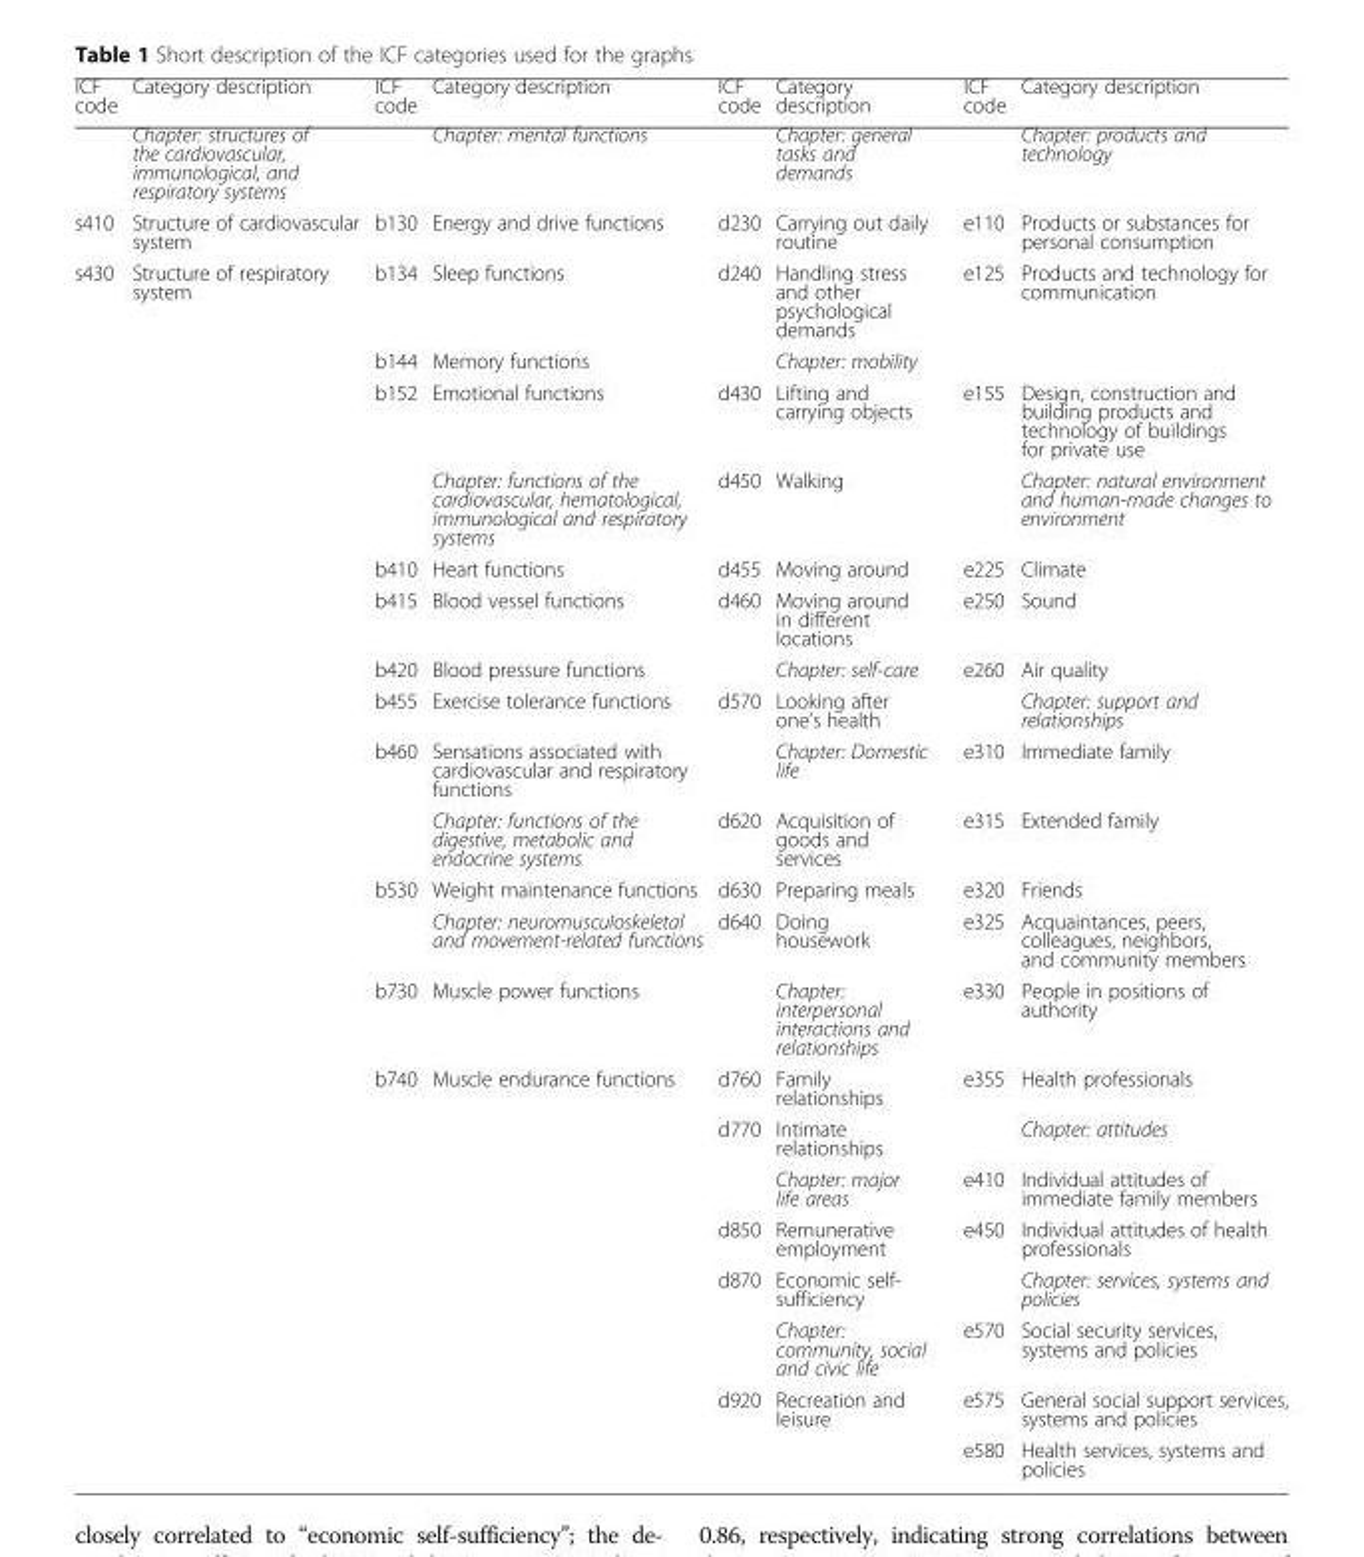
<table><thead><tr><td>ICF code</td><td>Category description</td><td>ICF code</td><td>Category description</td><td>ICF code</td><td>Category description</td><td>ICF code</td><td>Category description</td></tr></thead><tbody><tr><td></td><td>Chapter: structures of the cardiovascular, immunological, and respiratory systems</td><td></td><td>Chapter: mental functions</td><td></td><td>Chapter: general tasks and demands</td><td></td><td>Chapter: products and technology</td></tr><tr><td>s410</td><td>Structure of cardiovascular system</td><td>b130</td><td>Energy and drive functions</td><td>d230</td><td>Carrying out daily routine</td><td>e110</td><td>Products or substances for personal consumption</td></tr><tr><td rowspan="21">s430</td><td>Structure of respiratory system</td><td>b134</td><td>Sleep functions</td><td>d240</td><td>Handling stress and other psychological demands</td><td>e125</td><td>Products and technology for communication</td></tr><tr><td></td><td>b144</td><td>Memory functions</td><td></td><td>Chapter: mobility</td><td></td><td></td></tr><tr><td></td><td>b152</td><td>Emotional functions</td><td>d430</td><td>Lifting and carrying objects</td><td>e155</td><td>Design, construction and building products and technology of buildings for private use</td></tr><tr><td></td><td></td><td>Chapter: functions of the cardiovascular, hematological, immunological and respiratory systems</td><td>d450</td><td>Walking</td><td></td><td>Chapter: natural environment and human-made changes to environment</td></tr><tr><td></td><td>b410</td><td>Heart functions</td><td>d455</td><td>Moving around</td><td>e225</td><td>Climate</td></tr><tr><td></td><td>b415</td><td>Blood vessel functions</td><td>d460</td><td>Moving around in different locations</td><td>e250</td><td>Sound</td></tr><tr><td></td><td>b420</td><td>Blood pressure functions</td><td></td><td>Chapter: self-care</td><td>e260</td><td>Air quality</td></tr><tr><td></td><td>b455</td><td>Exercise tolerance functions</td><td>d570</td><td>Looking after one’s health</td><td></td><td>Chapter: support and relationships</td></tr><tr><td></td><td>b460</td><td>Sensations associated with cardiovascular and respiratory functions</td><td></td><td>Chapter: Domestic life</td><td>e310</td><td>Immediate family</td></tr><tr><td></td><td></td><td>Chapter: functions of the digestive, metabolic and endocrine systems</td><td>d620</td><td>Acquisition of goods and services</td><td>e315</td><td>Extended family</td></tr><tr><td></td><td>b530</td><td>Weight maintenance functions</td><td>d630</td><td>Preparing meals</td><td>e320</td><td>Friends</td></tr><tr><td></td><td></td><td>Chapter: neuromusculoskeletal and movement-related functions</td><td>d640</td><td>Doing housework</td><td>e325</td><td>Acquaintances, peers, colleagues, neighbors, and community members</td></tr><tr><td></td><td>b730</td><td>Muscle power functions</td><td></td><td>Chapter: interpersonal interactions and relationships</td><td>e330</td><td>People in positions of authority</td></tr><tr><td></td><td>b740</td><td>Muscle endurance functions</td><td>d760</td><td>Family relationships</td><td>e355</td><td>Health professionals</td></tr><tr><td></td><td></td><td></td><td>d770</td><td>Intimate relationships</td><td></td><td>Chapter: attitudes</td></tr><tr><td></td><td></td><td></td><td></td><td>Chapter: major life areas</td><td>e410</td><td>Individual attitudes of immediate family members</td></tr><tr><td></td><td></td><td></td><td>d850</td><td>Remunerative employment</td><td>e450</td><td>Individual attitudes of health professionals</td></tr><tr><td></td><td></td><td></td><td>d870</td><td>Economic self- sufficiency</td><td></td><td>Chapter: services, systems and policies</td></tr><tr><td></td><td></td><td></td><td></td><td>Chapter: community, social and civic life</td><td>e570</td><td>Social security services, systems and policies</td></tr><tr><td></td><td></td><td></td><td>d920</td><td>Recreation and leisure</td><td>e575</td><td>General social support services, systems and policies</td></tr><tr><td></td><td></td><td></td><td></td><td></td><td>e580</td><td>Health services, systems and policies</td></tr></tbody></table>